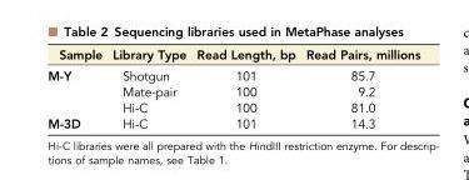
<table><thead><tr><td>Sample</td><td>Library Type</td><td>Read Length, bp</td><td>Read Pairs, millions</td></tr></thead><tbody><tr><td rowspan="3">M-Y</td><td>Shotgun</td><td>101</td><td>85.7</td></tr><tr><td>Mate-pair</td><td>100</td><td>9.2</td></tr><tr><td>Hi-C</td><td>100</td><td>81.0</td></tr><tr><td>M-3D</td><td>Hi-C</td><td>101</td><td>14.3</td></tr></tbody></table>